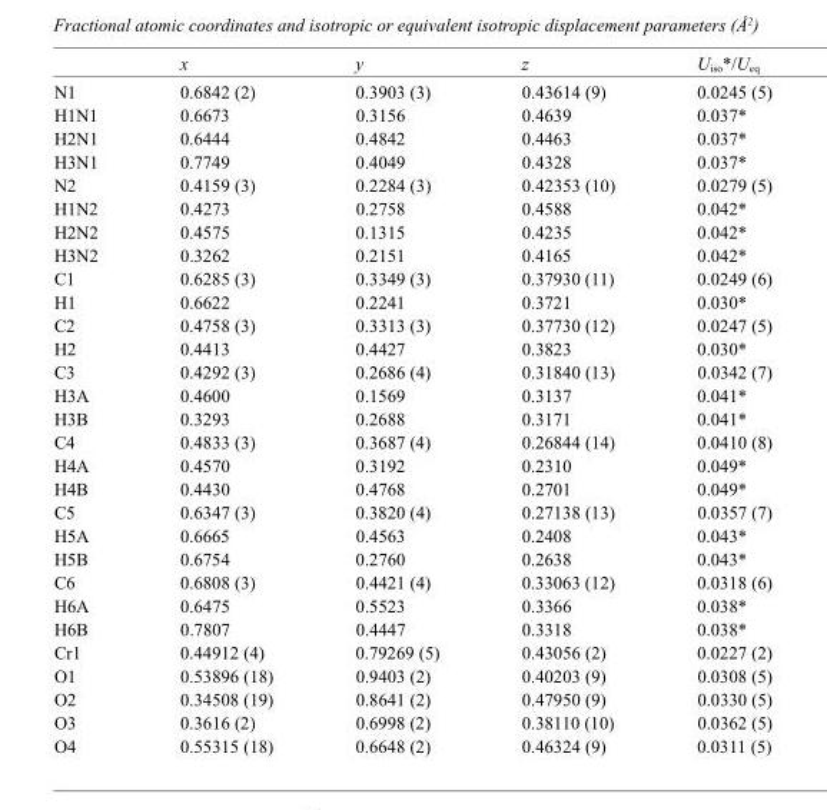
<table><thead><tr><td></td><td>x</td><td>y</td><td>z</td><td>U<sub>iso</sub>*/U<sub>eq</sub></td></tr></thead><tbody><tr><td>N1</td><td>0.6842 (2)</td><td>0.3903 (3)</td><td>0.43614 (9)</td><td>0.0245 (5)</td></tr><tr><td>H1N1</td><td>0.6673</td><td>0.3156</td><td>0.4639</td><td>0.037*</td></tr><tr><td>H2N1</td><td>0.6444</td><td>0.4842</td><td>0.4463</td><td>0.037*</td></tr><tr><td>H3N1</td><td>0.7749</td><td>0.4049</td><td>0.4328</td><td>0.037*</td></tr><tr><td>N2</td><td>0.4159 (3)</td><td>0.2284 (3)</td><td>0.42353 (10)</td><td>0.0279 (5)</td></tr><tr><td>H1N2</td><td>0.4273</td><td>0.2758</td><td>0.4588</td><td>0.042*</td></tr><tr><td>H2N2</td><td>0.4575</td><td>0.1315</td><td>0.4235</td><td>0.042*</td></tr><tr><td>H3N2</td><td>0.3262</td><td>0.2151</td><td>0.4165</td><td>0.042*</td></tr><tr><td>C1</td><td>0.6285 (3)</td><td>0.3349 (3)</td><td>0.37930 (11)</td><td>0.0249 (6)</td></tr><tr><td>H1</td><td>0.6622</td><td>0.2241</td><td>0.3721</td><td>0.030*</td></tr><tr><td>C2</td><td>0.4758 (3)</td><td>0.3313 (3)</td><td>0.37730 (12)</td><td>0.0247 (5)</td></tr><tr><td>H2</td><td>0.4413</td><td>0.4427</td><td>0.3823</td><td>0.030*</td></tr><tr><td>C3</td><td>0.4292 (3)</td><td>0.2686 (4)</td><td>0.31840 (13)</td><td>0.0342 (7)</td></tr><tr><td>H3A</td><td>0.4600</td><td>0.1569</td><td>0.3137</td><td>0.041*</td></tr><tr><td>H3B</td><td>0.3293</td><td>0.2688</td><td>0.3171</td><td>0.041*</td></tr><tr><td>C4</td><td>0.4833 (3)</td><td>0.3687 (4)</td><td>0.26844 (14)</td><td>0.0410 (8)</td></tr><tr><td>H4A</td><td>0.4570</td><td>0.3192</td><td>0.2310</td><td>0.049*</td></tr><tr><td>H4B</td><td>0.4430</td><td>0.4768</td><td>0.2701</td><td>0.049*</td></tr><tr><td>C5</td><td>0.6347 (3)</td><td>0.3820 (4)</td><td>0.27138 (13)</td><td>0.0357 (7)</td></tr><tr><td>H5A</td><td>0.6665</td><td>0.4563</td><td>0.2408</td><td>0.043*</td></tr><tr><td>H5B</td><td>0.6754</td><td>0.2760</td><td>0.2638</td><td>0.043*</td></tr><tr><td>C6</td><td>0.6808 (3)</td><td>0.4421 (4)</td><td>0.33063 (12)</td><td>0.0318 (6)</td></tr><tr><td>H6A</td><td>0.6475</td><td>0.5523</td><td>0.3366</td><td>0.038*</td></tr><tr><td>H6B</td><td>0.7807</td><td>0.4447</td><td>0.3318</td><td>0.038*</td></tr><tr><td>Cr1</td><td>0.44912 (4)</td><td>0.79269 (5)</td><td>0.43056 (2)</td><td>0.0227 (2)</td></tr><tr><td>O1</td><td>0.53896 (18)</td><td>0.9403 (2)</td><td>0.40203 (9)</td><td>0.0308 (5)</td></tr><tr><td>O2</td><td>0.34508 (19)</td><td>0.8641 (2)</td><td>0.47950 (9)</td><td>0.0330 (5)</td></tr><tr><td>O3</td><td>0.3616 (2)</td><td>0.6998 (2)</td><td>0.38110 (10)</td><td>0.0362 (5)</td></tr><tr><td>O4</td><td>0.55315 (18)</td><td>0.6648 (2)</td><td>0.46324 (9)</td><td>0.0311 (5)</td></tr></tbody></table>